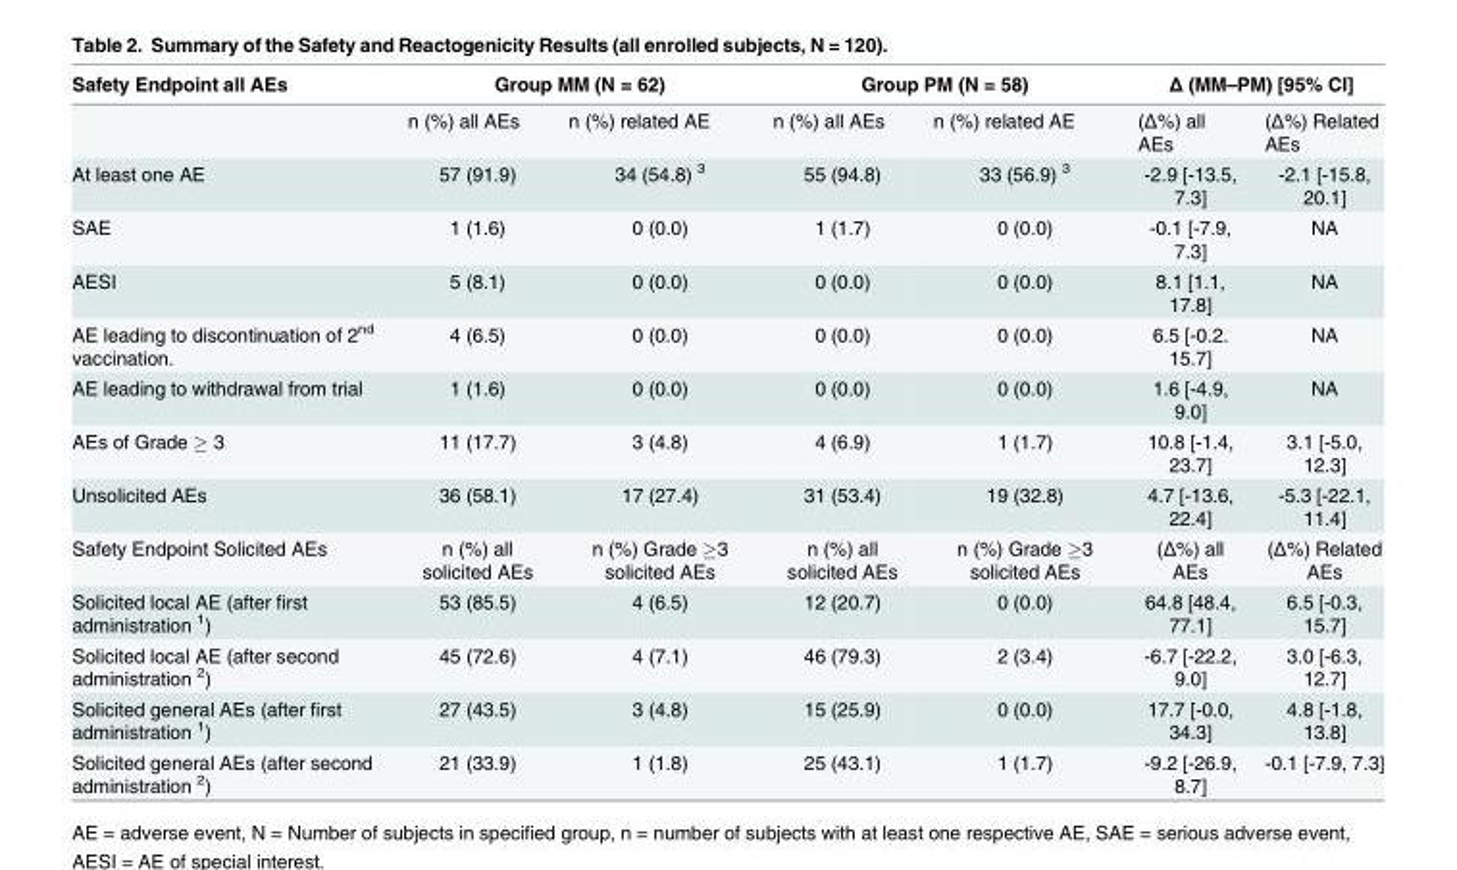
<table><thead><tr><td rowspan="2">Safety Endpoint all AEs</td><td colspan="2">Group MM (N = 62)</td><td colspan="2">Group PM (N = 58)</td><td colspan="2">Δ (MM–PM) [95% CI]</td></tr><tr><td>n (%) all AEs</td><td>n (%) related AE</td><td>n (%) all AEs</td><td>n (%) related AE</td><td>(Δ%) all AEs</td><td>(Δ%) Related AEs</td></tr></thead><tbody><tr><td>At least one AE</td><td>57 (91.9)</td><td>34 (54.8) <sup>3</sup></td><td>55 (94.8)</td><td>33 (56.9) <sup>3</sup></td><td>-2.9 [-13.5, 7.3]</td><td>-2.1 [-15.8, 20.1]</td></tr><tr><td>SAE</td><td>1 (1.6)</td><td>0 (0.0)</td><td>1 (1.7)</td><td>0 (0.0)</td><td>-0.1 [-7.9, 7.3]</td><td>NA</td></tr><tr><td>AESI</td><td>5 (8.1)</td><td>0 (0.0)</td><td>0 (0.0)</td><td>0 (0.0)</td><td>8.1 [1.1, 17.8]</td><td>NA</td></tr><tr><td>AE leading to discontinuation of 2<sup>nd</sup> vaccination.</td><td>4 (6.5)</td><td>0 (0.0)</td><td>0 (0.0)</td><td>0 (0.0)</td><td>6.5 [-0.2. 15.7]</td><td>NA</td></tr><tr><td>AE leading to withdrawal from trial</td><td>1 (1.6)</td><td>0 (0.0)</td><td>0 (0.0)</td><td>0 (0.0)</td><td>1.6 [-4.9, 9.0]</td><td>NA</td></tr><tr><td>AEs of Grade ≥ 3</td><td>11 (17.7)</td><td>3 (4.8)</td><td>4 (6.9)</td><td>1 (1.7)</td><td>10.8 [-1.4, 23.7]</td><td>3.1 [-5.0, 12.3]</td></tr><tr><td>Unsolicited AEs</td><td>36 (58.1)</td><td>17 (27.4)</td><td>31 (53.4)</td><td>19 (32.8)</td><td>4.7 [-13.6, 22.4]</td><td>-5.3 [-22.1, 11.4]</td></tr><tr><td>Safety Endpoint Solicited AEs</td><td>n (%) all solicited AEs</td><td>n (%) Grade ≥3 solicited AEs</td><td>n (%) all solicited AEs</td><td>n (%) Grade ≥3 solicited AEs</td><td>(Δ%) all AEs</td><td>(Δ%) Related AEs</td></tr><tr><td>Solicited local AE (after first administration <sup>1</sup>)</td><td>53 (85.5)</td><td>4 (6.5)</td><td>12 (20.7)</td><td>0 (0.0)</td><td>64.8 [48.4, 77.1]</td><td>6.5 [-0.3, 15.7]</td></tr><tr><td>Solicited local AE (after second administration <sup>2</sup>)</td><td>45 (72.6)</td><td>4 (7.1)</td><td>46 (79.3)</td><td>2 (3.4)</td><td>-6.7 [-22.2, 9.0]</td><td>3.0 [-6.3, 12.7]</td></tr><tr><td>Solicited general AEs (after first administration <sup>1</sup>)</td><td>27 (43.5)</td><td>3 (4.8)</td><td>15 (25.9)</td><td>0 (0.0)</td><td>17.7 [-0.0, 34.3]</td><td>4.8 [-1.8, 13.8]</td></tr><tr><td>Solicited general AEs (after second administration <sup>2</sup>)</td><td>21 (33.9)</td><td>1 (1.8)</td><td>25 (43.1)</td><td>1 (1.7)</td><td>-9.2 [-26.9, 8.7]</td><td>-0.1 [-7.9, 7.3]</td></tr></tbody></table>